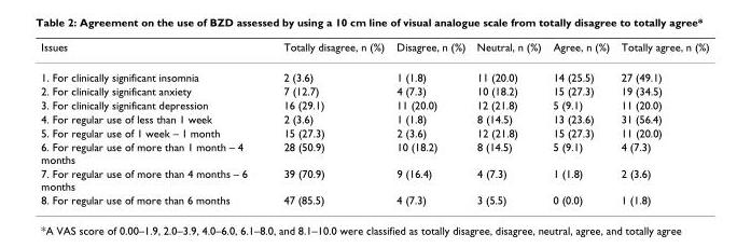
<table><thead><tr><td>Issues</td><td>Totally disagree, n (%)</td><td>Disagree, n (%)</td><td>Neutral, n (%)</td><td>Agree, n (%)</td><td>Totally agree, n (%)</td></tr></thead><tbody><tr><td>1. For clinically significant insomnia</td><td>2 (3.6)</td><td>1 (1.8)</td><td>11 (20.0)</td><td>14 (25.5)</td><td>27 (49.1)</td></tr><tr><td>2. For clinically significant anxiety</td><td>7 (12.7)</td><td>4 (7.3)</td><td>10 (18.2)</td><td>15 (27.3)</td><td>19 (34.5)</td></tr><tr><td>3. For clinically significant depression</td><td>16 (29.1)</td><td>11 (20.0)</td><td>12 (21.8)</td><td>5 (9.1)</td><td>11 (20.0)</td></tr><tr><td>4. For regular use of less than 1 week</td><td>2 (3.6)</td><td>1 (1.8)</td><td>8 (14.5)</td><td>13 (23.6)</td><td>31 (56.4)</td></tr><tr><td>5. For regular use of 1 week – 1 month</td><td>15 (27.3)</td><td>2 (3.6)</td><td>12 (21.8)</td><td>15 (27.3)</td><td>11 (20.0)</td></tr><tr><td>6. For regular use of more than 1 month – 4 months</td><td>28 (50.9)</td><td>10 (18.2)</td><td>8 (14.5)</td><td>5 (9.1)</td><td>4 (7.3)</td></tr><tr><td>7. For regular use of more than 4 months – 6 months</td><td>39 (70.9)</td><td>9 (16.4)</td><td>4 (7.3)</td><td>1 (1.8)</td><td>2 (3.6)</td></tr><tr><td>8. For regular use of more than 6 months</td><td>47 (85.5)</td><td>4 (7.3)</td><td>3 (5.5)</td><td>0 (0.0)</td><td>1 (1.8)</td></tr></tbody></table>